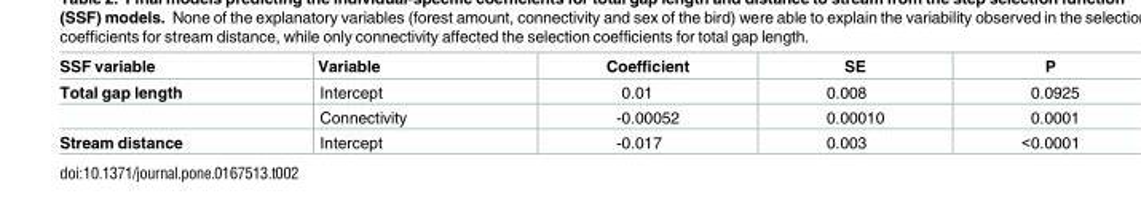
<table><thead><tr><td>SSF variable</td><td>Variable</td><td>Coefficient</td><td>SE</td><td>P</td></tr></thead><tbody><tr><td rowspan="2">Total gap length</td><td>Intercept</td><td>0.01</td><td>0.008</td><td>0.0925</td></tr><tr><td>Connectivity</td><td>-0.00052</td><td>0.00010</td><td>0.0001</td></tr><tr><td>Stream distance</td><td>Intercept</td><td>-0.017</td><td>0.003</td><td>&lt;0.0001</td></tr></tbody></table>